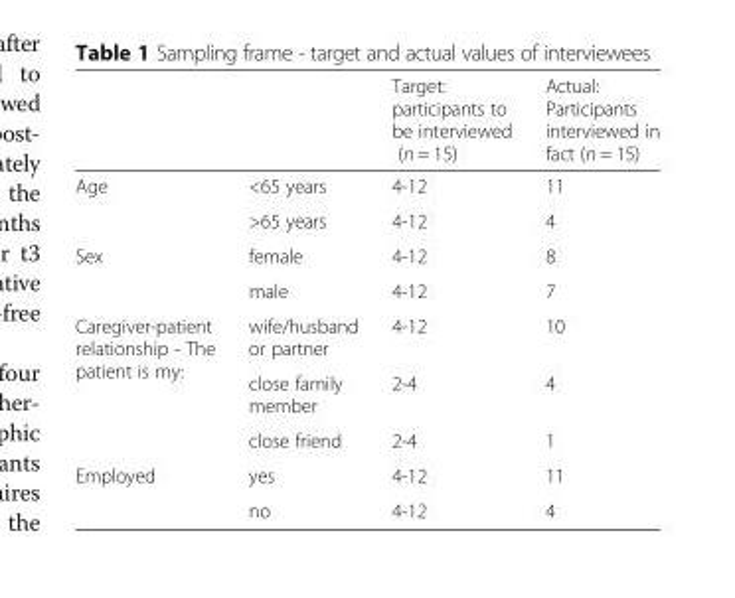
<table><thead><tr><td></td><td></td><td>Target: participants to be interviewed (n = 15)</td><td>Actual: Participants interviewed in fact (n = 15)</td></tr></thead><tbody><tr><td rowspan="2">Age</td><td>&lt;65 years</td><td>4-12</td><td>11</td></tr><tr><td>&gt;65 years</td><td>4-12</td><td>4</td></tr><tr><td rowspan="2">Sex</td><td>female</td><td>4-12</td><td>8</td></tr><tr><td>male</td><td>4-12</td><td>7</td></tr><tr><td rowspan="3">Caregiver-patient relationship - The patient is my:</td><td>wife/husband or partner</td><td>4-12</td><td>10</td></tr><tr><td>close family member</td><td>2-4</td><td>4</td></tr><tr><td>close friend</td><td>2-4</td><td>1</td></tr><tr><td rowspan="2">Employed</td><td>yes</td><td>4-12</td><td>11</td></tr><tr><td>no</td><td>4-12</td><td>4</td></tr></tbody></table>